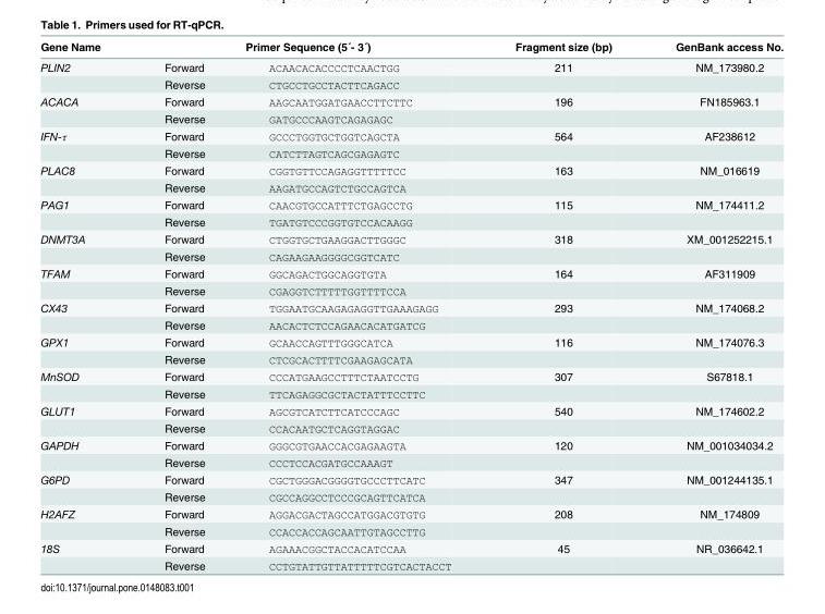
<table><thead><tr><td rowspan="2">Gene Name PLIN2</td><td colspan="2">Primer Sequence (5´- 3´)</td><td rowspan="2">Fragment size (bp) 211</td><td rowspan="2">GenBank access No. NM_173980.2</td></tr><tr><td>Forward</td><td>ACAACACACCCCTCAACTGG</td></tr></thead><tbody><tr><td></td><td>Reverse</td><td>CTGCCTGCCTACTTCAGACC</td><td></td><td></td></tr><tr><td rowspan="2">ACACA</td><td>Forward</td><td>AAGCAATGGATGAACCTTCTTC</td><td>196</td><td>FN185963.1</td></tr><tr><td>Reverse</td><td>GATGCCCAAGTCAGAGAGC</td><td></td><td></td></tr><tr><td rowspan="2">IFN-τ</td><td>Forward</td><td>GCCCTGGTGCTGGTCAGCTA</td><td>564</td><td>AF238612</td></tr><tr><td>Reverse</td><td>CATCTTAGTCAGCGAGAGTC</td><td></td><td></td></tr><tr><td rowspan="2">PLAC8</td><td>Forward</td><td>CGGTGTTCCAGAGGTTTTTCC</td><td>163</td><td>NM_016619</td></tr><tr><td>Reverse</td><td>AAGATGCCAGTCTGCCAGTCA</td><td></td><td></td></tr><tr><td rowspan="2">PAG1</td><td>Forward</td><td>CAACGTGCCATTTCTGAGCCTG</td><td>115</td><td>NM_174411.2</td></tr><tr><td>Reverse</td><td>TGATGTCCCGGTGTCCACAAGG</td><td></td><td></td></tr><tr><td rowspan="2">DNMT3A</td><td>Forward</td><td>CTGGTGCTGAAGGACTTGGGC</td><td>318</td><td>XM_001252215.1</td></tr><tr><td>Reverse</td><td>CAGAAGAAGGGGCGGTCATC</td><td></td><td></td></tr><tr><td rowspan="2">TFAM</td><td>Forward</td><td>GGCAGACTGGCAGGTGTA</td><td>164</td><td>AF311909</td></tr><tr><td>Reverse</td><td>CGAGGTCTTTTTGGTTTTCCA</td><td></td><td></td></tr><tr><td rowspan="2">CX43</td><td>Forward</td><td>TGGAATGCAAGAGAGGTTGAAAGAGG</td><td>293</td><td>NM_174068.2</td></tr><tr><td>Reverse</td><td>AACACTCTCCAGAACACATGATCG</td><td></td><td></td></tr><tr><td rowspan="2">GPX1</td><td>Forward</td><td>GCAACCAGTTTGGGCATCA</td><td>116</td><td>NM_174076.3</td></tr><tr><td>Reverse</td><td>CTCGCACTTTTCGAAGAGCATA</td><td></td><td></td></tr><tr><td rowspan="2">MnSOD</td><td>Forward</td><td>CCCATGAAGCCTTTCTAATCCTG</td><td>307</td><td>S67818.1</td></tr><tr><td>Reverse</td><td>TTCAGAGGCGCTACTATTTCCTTC</td><td></td><td></td></tr><tr><td rowspan="2">GLUT1</td><td>Forward</td><td>AGCGTCATCTTCATCCCAGC</td><td>540</td><td>NM_174602.2</td></tr><tr><td>Reverse</td><td>CCACAATGCTCAGGTAGGAC</td><td></td><td></td></tr><tr><td rowspan="2">GAPDH</td><td>Forward</td><td>GGGCGTGAACCACGAGAAGTA</td><td>120</td><td>NM_001034034.2</td></tr><tr><td>Reverse</td><td>CCCTCCACGATGCCAAAGT</td><td></td><td></td></tr><tr><td rowspan="2">G6PD</td><td>Forward</td><td>CGCTGGGACGGGGTGCCCTTCATC</td><td>347</td><td>NM_001244135.1</td></tr><tr><td>Reverse</td><td>CGCCAGGCCTCCCGCAGTTCATCA</td><td></td><td></td></tr><tr><td rowspan="2">H2AFZ</td><td>Forward</td><td>AGGACGACTAGCCATGGACGTGTG</td><td>208</td><td>NM_174809</td></tr><tr><td>Reverse</td><td>CCACCACCAGCAATTGTAGCCTTG</td><td></td><td></td></tr><tr><td rowspan="2">18S</td><td>Forward</td><td>AGAAACGGCTACCACATCCAA</td><td>45</td><td>NR_036642.1</td></tr><tr><td>Reverse</td><td>CCTGTATTGTTATTTTTCGTCACTACCT</td><td></td><td></td></tr></tbody></table>